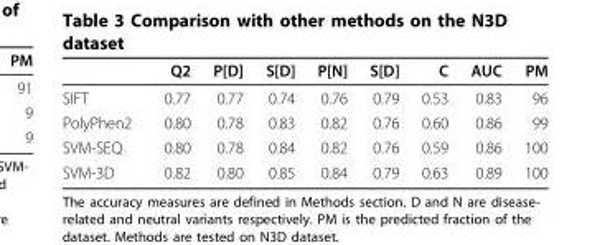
<table><thead><tr><td></td><td>Q2</td><td>P[D]</td><td>S[D]</td><td>P[N]</td><td>S[D]</td><td>C</td><td>AUC</td><td>PM</td></tr></thead><tbody><tr><td>SIFT</td><td>0.77</td><td>0.77</td><td>0.74</td><td>0.76</td><td>0.79</td><td>0.53</td><td>0.83</td><td>96</td></tr><tr><td>PolyPhen2</td><td>0.80</td><td>0.78</td><td>0.83</td><td>0.82</td><td>0.76</td><td>0.60</td><td>0.86</td><td>99</td></tr><tr><td>SVM-SEQ</td><td>0.80</td><td>0.78</td><td>0.84</td><td>0.82</td><td>0.76</td><td>0.59</td><td>0.86</td><td>100</td></tr><tr><td>SVM-3D</td><td>0.82</td><td>0.80</td><td>0.85</td><td>0.84</td><td>0.79</td><td>0.63</td><td>0.89</td><td>100</td></tr></tbody></table>